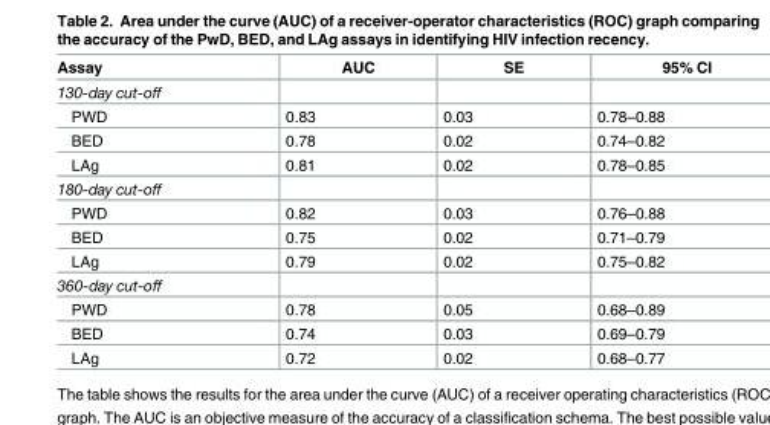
<table><thead><tr><td>Assay</td><td>AUC</td><td>SE</td><td>95% CI</td></tr></thead><tbody><tr><td colspan="4">130-day cut-off</td></tr><tr><td>PWD</td><td>0.83</td><td>0.03</td><td>0.78–0.88</td></tr><tr><td>BED</td><td>0.78</td><td>0.02</td><td>0.74–0.82</td></tr><tr><td>LAg</td><td>0.81</td><td>0.02</td><td>0.78–0.85</td></tr><tr><td colspan="4">180-day cut-off</td></tr><tr><td>PWD</td><td>0.82</td><td>0.03</td><td>0.76–0.88</td></tr><tr><td>BED</td><td>0.75</td><td>0.02</td><td>0.71–0.79</td></tr><tr><td>LAg</td><td>0.79</td><td>0.02</td><td>0.75–0.82</td></tr><tr><td colspan="4">360-day cut-off</td></tr><tr><td>PWD</td><td>0.78</td><td>0.05</td><td>0.68–0.89</td></tr><tr><td>BED</td><td>0.74</td><td>0.03</td><td>0.69–0.79</td></tr><tr><td>LAg</td><td>0.72</td><td>0.02</td><td>0.68–0.77</td></tr></tbody></table>